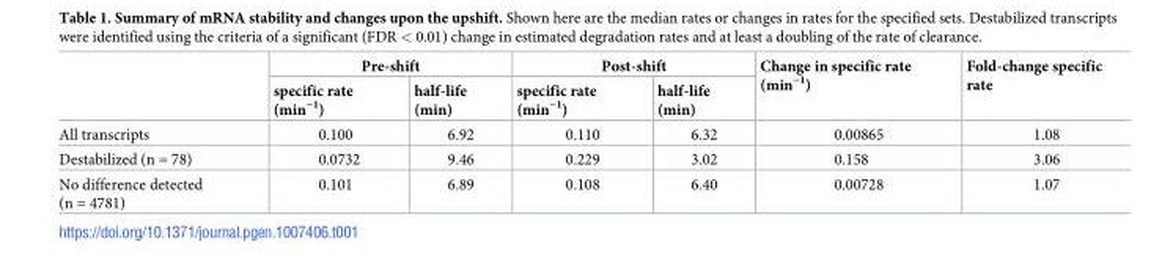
<table><thead><tr><td rowspan="2"></td><td colspan="2">Pre-shift</td><td colspan="2">Post-shift</td><td rowspan="2">Change in specific rate (min<sup>−1</sup>)</td><td rowspan="2">Fold-change specific rate</td></tr><tr><td>specific rate (min<sup>−1</sup>)</td><td>half-life (min)</td><td>specific rate (min<sup>−1</sup>)</td><td>half-life (min)</td></tr></thead><tbody><tr><td>All transcripts</td><td>0.100</td><td>6.92</td><td>0.110</td><td>6.32</td><td>0.00865</td><td>1.08</td></tr><tr><td>Destabilized (n = 78)</td><td>0.0732</td><td>9.46</td><td>0.229</td><td>3.02</td><td>0.158</td><td>3.06</td></tr><tr><td>No difference detected (n = 4781)</td><td>0.101</td><td>6.89</td><td>0.108</td><td>6.40</td><td>0.00728</td><td>1.07</td></tr></tbody></table>